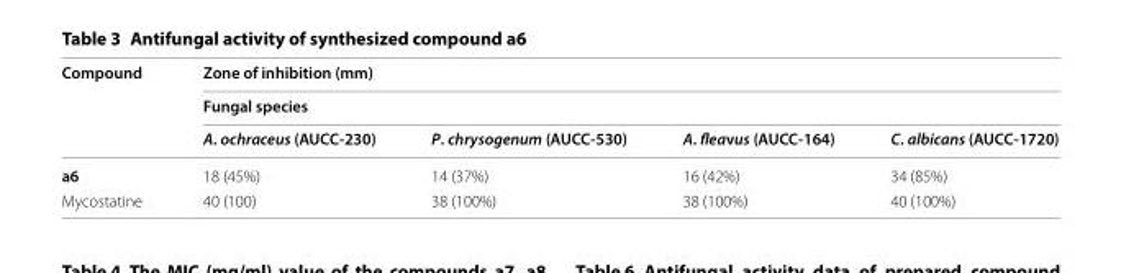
<table><thead><tr><td rowspan="3">Compound</td><td rowspan="2" colspan="4">Zone of inhibition (mm) Fungal species</td></tr><tr></tr><tr><td>A. ochraceus (AUCC-230)</td><td>P. chrysogenum (AUCC-530)</td><td>A. fleavus (AUCC-164)</td><td>C. albicans (AUCC-1720)</td></tr></thead><tbody><tr><td>a6</td><td>18 (45%)</td><td>14 (37%)</td><td>16 (42%)</td><td>34 (85%)</td></tr><tr><td>Mycostatine</td><td>40 (100)</td><td>38 (100%)</td><td>38 (100%)</td><td>40 (100%)</td></tr></tbody></table>